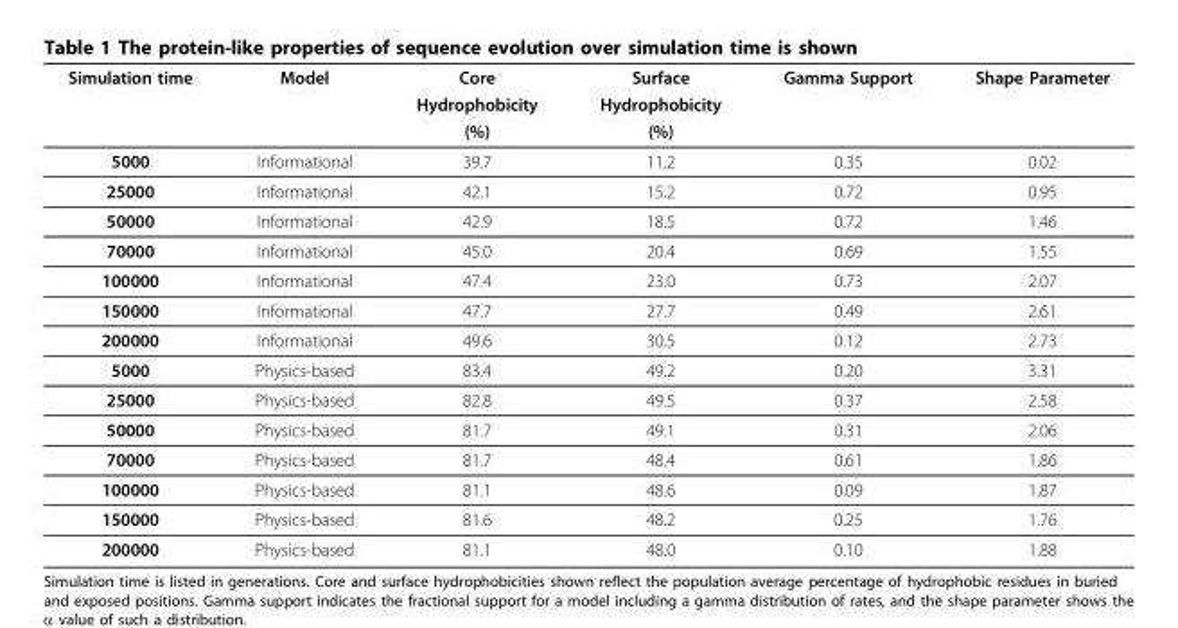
<table><thead><tr><td rowspan="3">Simulation time</td><td rowspan="3">Model</td><td rowspan="3">Core Hydrophobicity (%)</td><td rowspan="3">Surface Hydrophobicity (%)</td><td rowspan="3">Gamma Support</td><td rowspan="3">Shape Parameter</td></tr><tr></tr><tr></tr></thead><tbody><tr><td>5000</td><td>Informational</td><td>39.7</td><td>11.2</td><td>0.35</td><td>0.02</td></tr><tr><td>25000</td><td>Informational</td><td>42.1</td><td>15.2</td><td>0.72</td><td>0.95</td></tr><tr><td>50000</td><td>Informational</td><td>42.9</td><td>18.5</td><td>0.72</td><td>1.46</td></tr><tr><td>70000</td><td>Informational</td><td>45.0</td><td>20.4</td><td>0.69</td><td>1.55</td></tr><tr><td>100000</td><td>Informational</td><td>47.4</td><td>23.0</td><td>0.73</td><td>2.07</td></tr><tr><td>150000</td><td>Informational</td><td>47.7</td><td>27.7</td><td>0.49</td><td>2.61</td></tr><tr><td>200000</td><td>Informational</td><td>49.6</td><td>30.5</td><td>0.12</td><td>2.73</td></tr><tr><td>5000</td><td>Physics-based</td><td>83.4</td><td>49.2</td><td>0.20</td><td>3.31</td></tr><tr><td>25000</td><td>Physics-based</td><td>82.8</td><td>49.5</td><td>0.37</td><td>2.58</td></tr><tr><td>50000</td><td>Physics-based</td><td>81.7</td><td>49.1</td><td>0.31</td><td>2.06</td></tr><tr><td>70000</td><td>Physics-based</td><td>81.7</td><td>48.4</td><td>0.61</td><td>1.86</td></tr><tr><td>100000</td><td>Physics-based</td><td>81.1</td><td>48.6</td><td>0.09</td><td>1.87</td></tr><tr><td>150000</td><td>Physics-based</td><td>81.6</td><td>48.2</td><td>0.25</td><td>1.76</td></tr><tr><td>200000</td><td>Physics-based</td><td>81.1</td><td>48.0</td><td>0.10</td><td>1.88</td></tr></tbody></table>